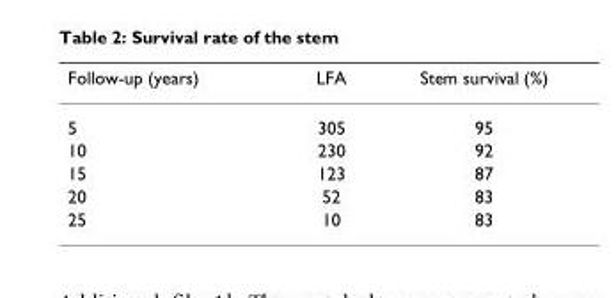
<table><thead><tr><td>Follow-up (years)</td><td>LFA</td><td>Stem survival (%)</td></tr></thead><tbody><tr><td>5</td><td>305</td><td>95</td></tr><tr><td>10</td><td>230</td><td>92</td></tr><tr><td>15</td><td>123</td><td>87</td></tr><tr><td>20</td><td>52</td><td>83</td></tr><tr><td>25</td><td>10</td><td>83</td></tr></tbody></table>